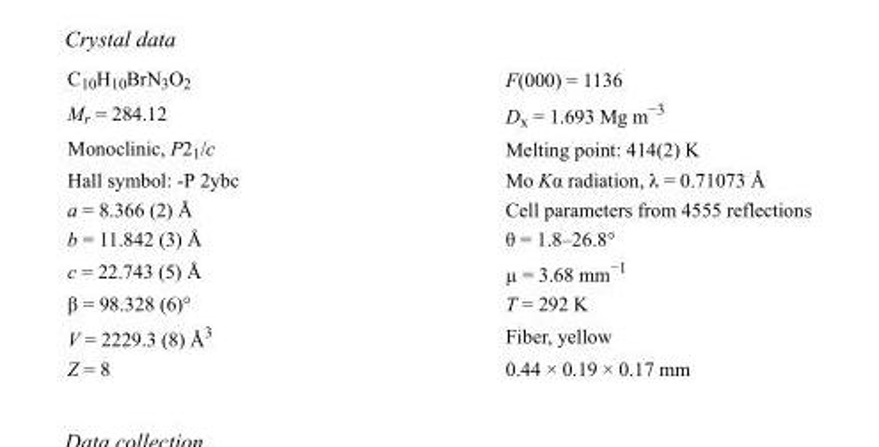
<table><tbody><tr><td>C<sub>10</sub>H<sub>10</sub>BrN<sub>3</sub>O<sub>2</sub></td><td>F(000) = 1136</td></tr><tr><td>M<sub>r</sub> = 284.12</td><td>D<sub>x</sub> = 1.693 Mg m<sup>−3</sup></td></tr><tr><td>Monoclinic, P2<sub>1</sub>/c</td><td>Melting point: 414(2) K</td></tr><tr><td>Hall symbol: -P 2ybc</td><td>Mo Kα radiation, λ = 0.71073 Å</td></tr><tr><td>a = 8.366 (2) Å</td><td>Cell parameters from 4555 reflections</td></tr><tr><td>b = 11.842 (3) Å</td><td>θ = 1.8–26.8°</td></tr><tr><td>c = 22.743 (5) Å</td><td>µ = 3.68 mm<sup>−1</sup></td></tr><tr><td>β = 98.328 (6)°</td><td>T = 292 K</td></tr><tr><td>V = 2229.3 (8) Å<sup>3</sup></td><td>Fiber, yellow</td></tr><tr><td>Z = 8</td><td>0.44 × 0.19 × 0.17 mm</td></tr></tbody></table>